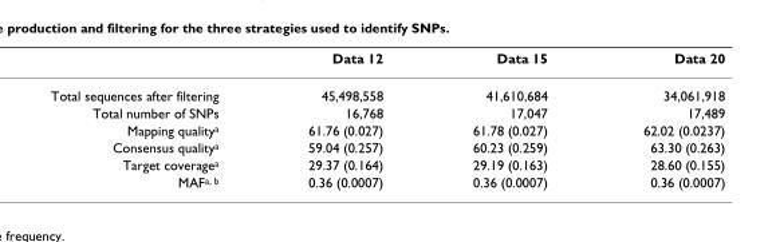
<table><thead><tr><td></td><td>Data 12</td><td>Data 15</td><td>Data 20</td></tr></thead><tbody><tr><td>Total sequences after filtering</td><td>45,498,558</td><td>41,610,684</td><td>34,061,918</td></tr><tr><td>Total number of SNPs</td><td>16,768</td><td>17,047</td><td>17,489</td></tr><tr><td>Mapping quality<sup>a</sup></td><td>61.76 (0.027)</td><td>61.78 (0.027)</td><td>62.02 (0.0237)</td></tr><tr><td>Consensus quality<sup>a</sup></td><td>59.04 (0.257)</td><td>60.23 (0.259)</td><td>63.30 (0.263)</td></tr><tr><td>Target coverage<sup>a</sup></td><td>29.37 (0.164)</td><td>29.19 (0.163)</td><td>28.60 (0.155)</td></tr><tr><td>MAF<sup>a, b</sup></td><td>0.36 (0.0007)</td><td>0.36 (0.0007)</td><td>0.36 (0.0007)</td></tr></tbody></table>